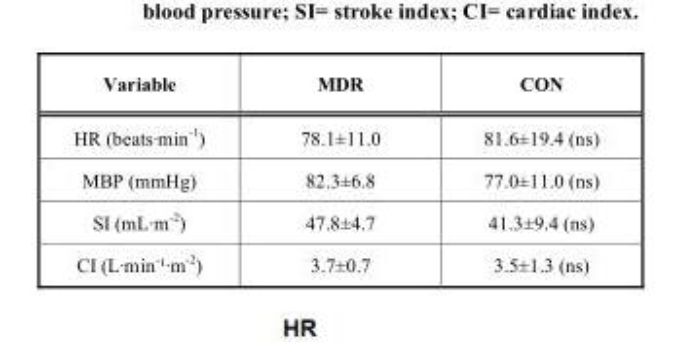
<table><thead><tr><td>Variable</td><td>MDR</td><td>CON</td></tr></thead><tbody><tr><td>HR (beats·min-1)</td><td>78.1±11.0</td><td>81.6±19.4 (ns)</td></tr><tr><td>MBP (mmHg)</td><td>82.3±6.8</td><td>77.0±11.0 (ns)</td></tr><tr><td>SI (mL·m-2)</td><td>47.8±4.7</td><td>41.3±9.4 (ns)</td></tr><tr><td>CI (L·min-¹·m-2)</td><td>3.7±0.7</td><td>3.5±1.3 (ns)</td></tr></tbody></table>